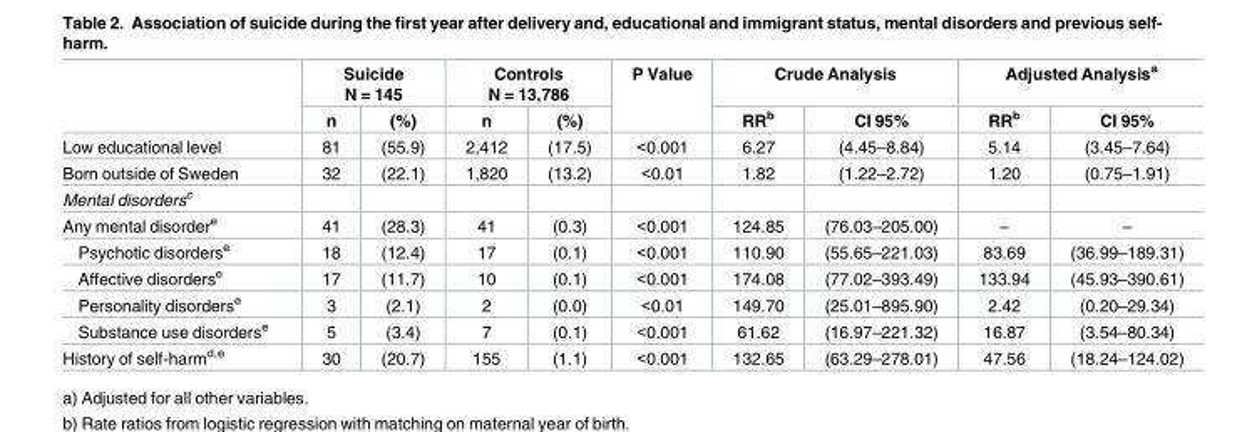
<table><thead><tr><td rowspan="2"></td><td colspan="2">Suicide N = 145</td><td colspan="2">Controls N = 13,786</td><td rowspan="2">P Value</td><td colspan="2">Crude Analysis</td><td colspan="2">Adjusted Analysis<sup>a</sup></td></tr><tr><td>n</td><td>(%)</td><td>n</td><td>(%)</td><td>RR<sup>b</sup></td><td>CI 95%</td><td>RR<sup>b</sup></td><td>CI 95%</td></tr></thead><tbody><tr><td>Low educational level</td><td>81</td><td>(55.9)</td><td>2,412</td><td>(17.5)</td><td>&lt;0.001</td><td>6.27</td><td>(4.45–8.84)</td><td>5.14</td><td>(3.45–7.64)</td></tr><tr><td>Born outside of Sweden</td><td>32</td><td>(22.1)</td><td>1,820</td><td>(13.2)</td><td>&lt;0.01</td><td>1.82</td><td>(1.22–2.72)</td><td>1.20</td><td>(0.75–1.91)</td></tr><tr><td colspan="10">Mental disorders<sup>c</sup></td></tr><tr><td>Any mental disorder<sup>e</sup></td><td>41</td><td>(28.3)</td><td>41</td><td>(0.3)</td><td>&lt;0.001</td><td>124.85</td><td>(76.03–205.00)</td><td>–</td><td>–</td></tr><tr><td>Psychotic disorders<sup>e</sup></td><td>18</td><td>(12.4)</td><td>17</td><td>(0.1)</td><td>&lt;0.001</td><td>110.90</td><td>(55.65–221.03)</td><td>83.69</td><td>(36.99–189.31)</td></tr><tr><td>Affective disorders<sup>e</sup></td><td>17</td><td>(11.7)</td><td>10</td><td>(0.1)</td><td>&lt;0.001</td><td>174.08</td><td>(77.02–393.49)</td><td>133.94</td><td>(45.93–390.61)</td></tr><tr><td>Personality disorders<sup>e</sup></td><td>3</td><td>(2.1)</td><td>2</td><td>(0.0)</td><td>&lt;0.01</td><td>149.70</td><td>(25.01–895.90)</td><td>2.42</td><td>(0.20–29.34)</td></tr><tr><td>Substance use disorders<sup>e</sup></td><td>5</td><td>(3.4)</td><td>7</td><td>(0.1)</td><td>&lt;0.001</td><td>61.62</td><td>(16.97–221.32)</td><td>16.87</td><td>(3.54–80.34)</td></tr><tr><td>History of self-harm<sup>d,e</sup></td><td>30</td><td>(20.7)</td><td>155</td><td>(1.1)</td><td>&lt;0.001</td><td>132.65</td><td>(63.29–278.01)</td><td>47.56</td><td>(18.24–124.02)</td></tr></tbody></table>